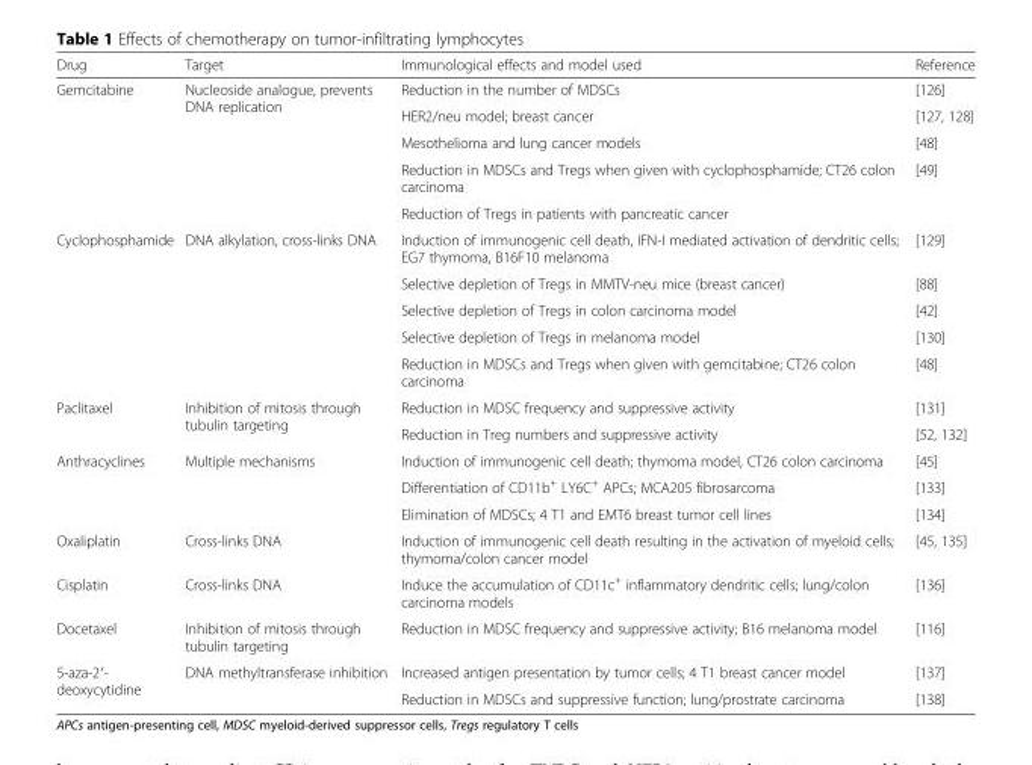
<table><thead><tr><td>Drug</td><td>Target</td><td>Immunological effects and model used</td><td>Reference</td></tr></thead><tbody><tr><td rowspan="5">Gemcitabine</td><td rowspan="5">Nucleoside analogue, prevents DNA replication</td><td>Reduction in the number of MDSCs</td><td>[126]</td></tr><tr><td>HER2/neu model; breast cancer</td><td>[127, 128]</td></tr><tr><td>Mesothelioma and lung cancer models</td><td>[48]</td></tr><tr><td>Reduction in MDSCs and Tregs when given with cyclophosphamide; CT26 colon carcinoma</td><td rowspan="2">[49]</td></tr><tr><td>Reduction of Tregs in patients with pancreatic cancer</td></tr><tr><td rowspan="5">Cyclophosphamide</td><td rowspan="5">DNA alkylation, cross-links DNA</td><td>Induction of immunogenic cell death, IFN-I mediated activation of dendritic cells; EG7 thymoma, B16F10 melanoma</td><td>[129]</td></tr><tr><td>Selective depletion of Tregs in MMTV-neu mice (breast cancer)</td><td>[88]</td></tr><tr><td>Selective depletion of Tregs in colon carcinoma model</td><td>[42]</td></tr><tr><td>Selective depletion of Tregs in melanoma model</td><td>[130]</td></tr><tr><td>Reduction in MDSCs and Tregs when given with gemcitabine; CT26 colon carcinoma</td><td>[48]</td></tr><tr><td rowspan="2">Paclitaxel</td><td rowspan="2">Inhibition of mitosis through tubulin targeting</td><td>Reduction in MDSC frequency and suppressive activity</td><td>[131]</td></tr><tr><td>Reduction in Treg numbers and suppressive activity</td><td>[52, 132]</td></tr><tr><td rowspan="3">Anthracyclines</td><td rowspan="3">Multiple mechanisms</td><td>Induction of immunogenic cell death; thymoma model, CT26 colon carcinoma</td><td>[45]</td></tr><tr><td>Differentiation of CD11b<sup>+</sup> LY6C<sup>+</sup> APCs; MCA205 fibrosarcoma</td><td>[133]</td></tr><tr><td>Elimination of MDSCs; 4 T1 and EMT6 breast tumor cell lines</td><td>[134]</td></tr><tr><td>Oxaliplatin</td><td>Cross-links DNA</td><td>Induction of immunogenic cell death resulting in the activation of myeloid cells; thymoma/colon cancer model</td><td>[45, 135]</td></tr><tr><td>Cisplatin</td><td>Cross-links DNA</td><td>Induce the accumulation of CD11c<sup>+</sup> inflammatory dendritic cells; lung/colon carcinoma models</td><td>[136]</td></tr><tr><td>Docetaxel</td><td>Inhibition of mitosis through tubulin targeting</td><td>Reduction in MDSC frequency and suppressive activity; B16 melanoma model</td><td>[116]</td></tr><tr><td rowspan="2">5-aza-2′- deoxycytidine</td><td rowspan="2">DNA methyltransferase inhibition</td><td>Increased antigen presentation by tumor cells; 4 T1 breast cancer model</td><td>[137]</td></tr><tr><td>Reduction in MDSCs and suppressive function; lung/prostrate carcinoma</td><td>[138]</td></tr></tbody></table>